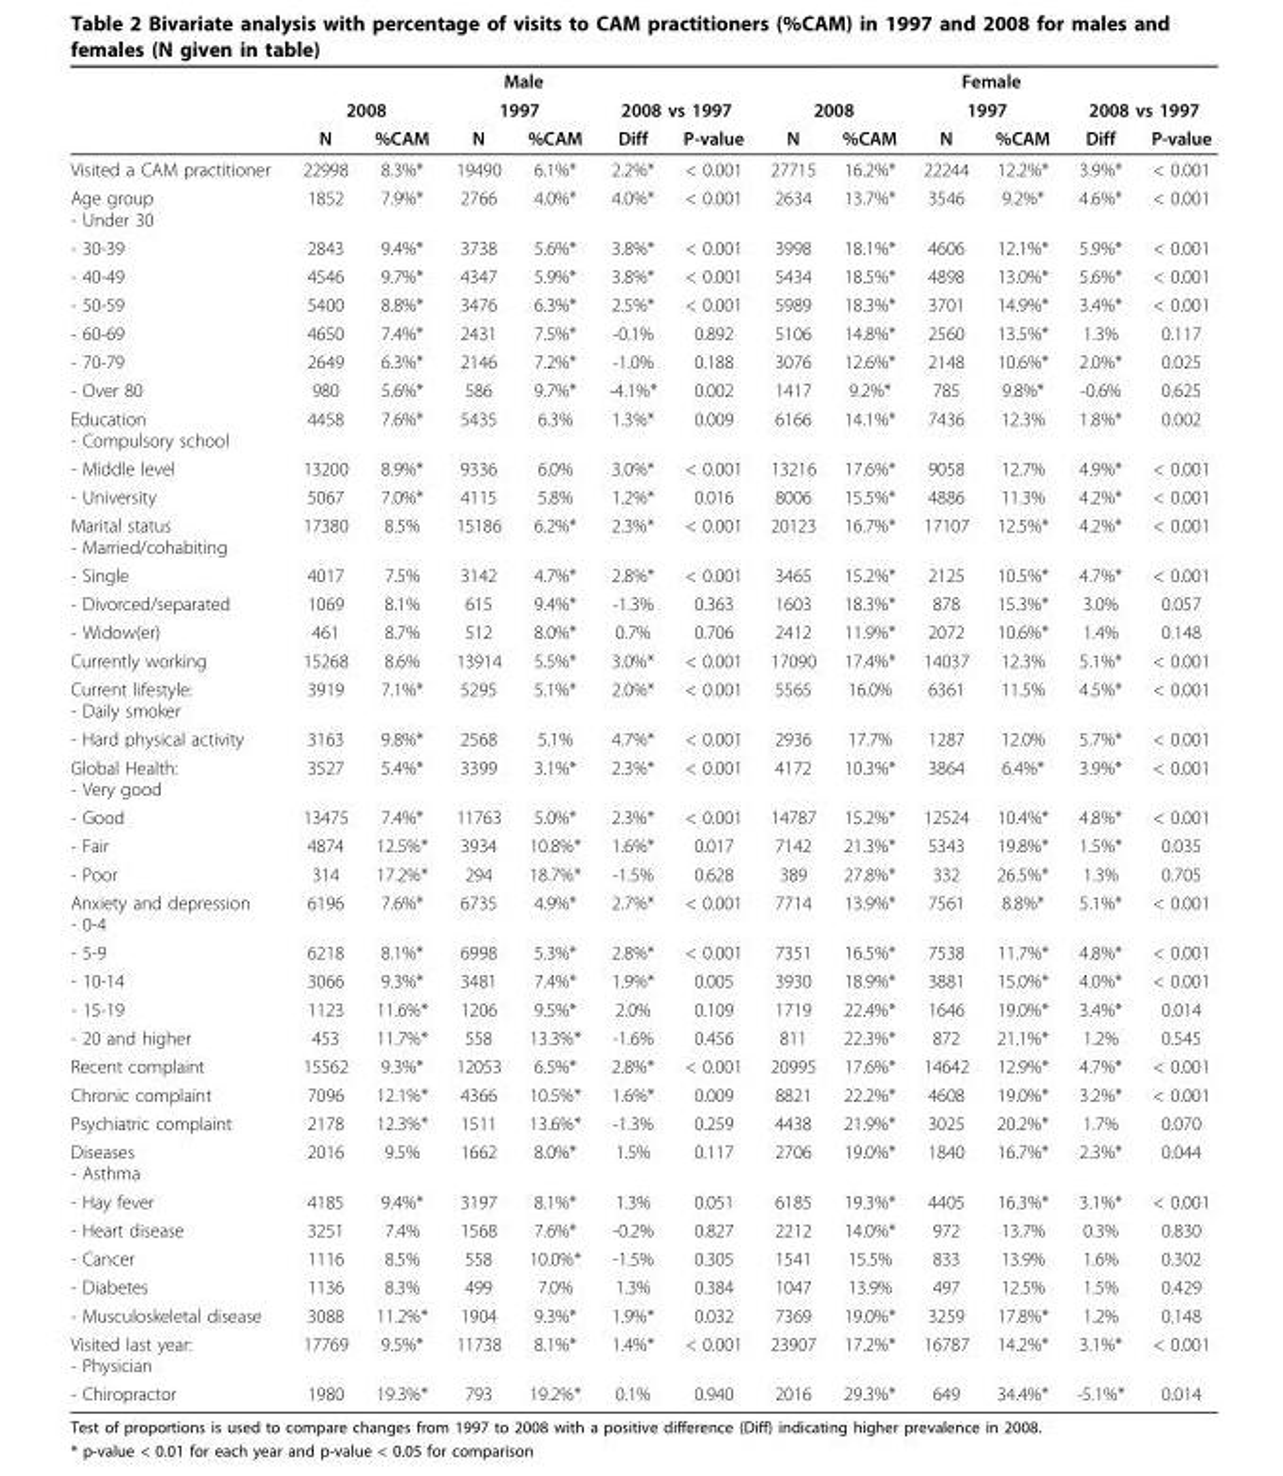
<table><thead><tr><td rowspan="3"></td><td colspan="6">Male</td><td colspan="6">Female</td></tr><tr><td colspan="2">2008</td><td colspan="2">1997</td><td colspan="2">2008 vs 1997</td><td colspan="2">2008</td><td colspan="2">1997</td><td colspan="2">2008 vs 1997</td></tr><tr><td>N</td><td>%CAM</td><td>N</td><td>%CAM</td><td>Diff</td><td>P-value</td><td>N</td><td>%CAM</td><td>N</td><td>%CAM</td><td>Diff</td><td>P-value</td></tr></thead><tbody><tr><td>Visited a CAM practitioner</td><td>22998</td><td>8.3%*</td><td>19490</td><td>6.1%*</td><td>2.2%*</td><td>&lt; 0.001</td><td>27715</td><td>16.2%*</td><td>22244</td><td>12.2%*</td><td>3.9%*</td><td>&lt; 0.001</td></tr><tr><td>Age group - Under 30</td><td>1852</td><td>7.9%*</td><td>2766</td><td>4.0%*</td><td>4.0%*</td><td>&lt; 0.001</td><td>2634</td><td>13.7%*</td><td>3546</td><td>9.2%*</td><td>4.6%*</td><td>&lt; 0.001</td></tr><tr><td>- 30-39</td><td>2843</td><td>9.4%*</td><td>3738</td><td>5.6%*</td><td>3.8%*</td><td>&lt; 0.001</td><td>3998</td><td>18.1%*</td><td>4606</td><td>12.1%*</td><td>5.9%*</td><td>&lt; 0.001</td></tr><tr><td>- 40-49</td><td>4546</td><td>9.7%*</td><td>4347</td><td>5.9%*</td><td>3.8%*</td><td>&lt; 0.001</td><td>5434</td><td>18.5%*</td><td>4898</td><td>13.0%*</td><td>5.6%*</td><td>&lt; 0.001</td></tr><tr><td>- 50-59</td><td>5400</td><td>8.8%*</td><td>3476</td><td>6.3%*</td><td>2.5%*</td><td>&lt; 0.001</td><td>5989</td><td>18.3%*</td><td>3701</td><td>14.9%*</td><td>3.4%*</td><td>&lt; 0.001</td></tr><tr><td>- 60-69</td><td>4650</td><td>7.4%*</td><td>2431</td><td>7.5%*</td><td>-0.1%</td><td>0.892</td><td>5106</td><td>14.8%*</td><td>2560</td><td>13.5%*</td><td>1.3%</td><td>0.117</td></tr><tr><td>- 70-79</td><td>2649</td><td>6.3%*</td><td>2146</td><td>7.2%*</td><td>-1.0%</td><td>0.188</td><td>3076</td><td>12.6%*</td><td>2148</td><td>10.6%*</td><td>2.0%*</td><td>0.025</td></tr><tr><td>- Over 80</td><td>980</td><td>5.6%*</td><td>586</td><td>9.7%*</td><td>-4.1%*</td><td>0.002</td><td>1417</td><td>9.2%*</td><td>785</td><td>9.8%*</td><td>-0.6%</td><td>0.625</td></tr><tr><td>Education - Compulsory school</td><td>4458</td><td>7.6%*</td><td>5435</td><td>6.3%</td><td>1.3%*</td><td>0.009</td><td>6166</td><td>14.1%*</td><td>7436</td><td>12.3%</td><td>1.8%*</td><td>0.002</td></tr><tr><td>- Middle level</td><td>13200</td><td>8.9%*</td><td>9336</td><td>6.0%</td><td>3.0%*</td><td>&lt; 0.001</td><td>13216</td><td>17.6%*</td><td>9058</td><td>12.7%</td><td>4.9%*</td><td>&lt; 0.001</td></tr><tr><td>- University</td><td>5067</td><td>7.0%*</td><td>4115</td><td>5.8%</td><td>1.2%*</td><td>0.016</td><td>8006</td><td>15.5%*</td><td>4886</td><td>11.3%</td><td>4.2%*</td><td>&lt; 0.001</td></tr><tr><td>Marital status - Married/cohabiting</td><td>17380</td><td>8.5%</td><td>15186</td><td>6.2%*</td><td>2.3%*</td><td>&lt; 0.001</td><td>20123</td><td>16.7%*</td><td>17107</td><td>12.5%*</td><td>4.2%*</td><td>&lt; 0.001</td></tr><tr><td>- Single</td><td>4017</td><td>7.5%</td><td>3142</td><td>4.7%*</td><td>2.8%*</td><td>&lt; 0.001</td><td>3465</td><td>15.2%*</td><td>2125</td><td>10.5%*</td><td>4.7%*</td><td>&lt; 0.001</td></tr><tr><td>- Divorced/separated</td><td>1069</td><td>8.1%</td><td>615</td><td>9.4%*</td><td>-1.3%</td><td>0.363</td><td>1603</td><td>18.3%*</td><td>878</td><td>15.3%*</td><td>3.0%</td><td>0.057</td></tr><tr><td>- Widow(er)</td><td>461</td><td>8.7%</td><td>512</td><td>8.0%*</td><td>0.7%</td><td>0.706</td><td>2412</td><td>11.9%*</td><td>2072</td><td>10.6%*</td><td>1.4%</td><td>0.148</td></tr><tr><td>Currently working</td><td>15268</td><td>8.6%</td><td>13914</td><td>5.5%*</td><td>3.0%*</td><td>&lt; 0.001</td><td>17090</td><td>17.4%*</td><td>14037</td><td>12.3%</td><td>5.1%*</td><td>&lt; 0.001</td></tr><tr><td>Current lifestyle: - Daily smoker</td><td>3919</td><td>7.1%*</td><td>5295</td><td>5.1%*</td><td>2.0%*</td><td>&lt; 0.001</td><td>5565</td><td>16.0%</td><td>6361</td><td>11.5%</td><td>4.5%*</td><td>&lt; 0.001</td></tr><tr><td>- Hard physical activity</td><td>3163</td><td>9.8%*</td><td>2568</td><td>5.1%</td><td>4.7%*</td><td>&lt; 0.001</td><td>2936</td><td>17.7%</td><td>1287</td><td>12.0%</td><td>5.7%*</td><td>&lt; 0.001</td></tr><tr><td>Global Health: - Very good</td><td>3527</td><td>5.4%*</td><td>3399</td><td>3.1%*</td><td>2.3%*</td><td>&lt; 0.001</td><td>4172</td><td>10.3%*</td><td>3864</td><td>6.4%*</td><td>3.9%*</td><td>&lt; 0.001</td></tr><tr><td>- Good</td><td>13475</td><td>7.4%*</td><td>11763</td><td>5.0%*</td><td>2.3%*</td><td>&lt; 0.001</td><td>14787</td><td>15.2%*</td><td>12524</td><td>10.4%*</td><td>4.8%*</td><td>&lt; 0.001</td></tr><tr><td>- Fair</td><td>4874</td><td>12.5%*</td><td>3934</td><td>10.8%*</td><td>1.6%*</td><td>0.017</td><td>7142</td><td>21.3%*</td><td>5343</td><td>19.8%*</td><td>1.5%*</td><td>0.035</td></tr><tr><td>- Poor</td><td>314</td><td>17.2%*</td><td>294</td><td>18.7%*</td><td>-1.5%</td><td>0.628</td><td>389</td><td>27.8%*</td><td>332</td><td>26.5%*</td><td>1.3%</td><td>0.705</td></tr><tr><td>Anxiety and depression - 0-4</td><td>6196</td><td>7.6%*</td><td>6735</td><td>4.9%*</td><td>2.7%*</td><td>&lt; 0.001</td><td>7714</td><td>13.9%*</td><td>7561</td><td>8.8%*</td><td>5.1%*</td><td>&lt; 0.001</td></tr><tr><td>- 5-9</td><td>6218</td><td>8.1%*</td><td>6998</td><td>5.3%*</td><td>2.8%*</td><td>&lt; 0.001</td><td>7351</td><td>16.5%*</td><td>7538</td><td>11.7%*</td><td>4.8%*</td><td>&lt; 0.001</td></tr><tr><td>- 10-14</td><td>3066</td><td>9.3%*</td><td>3481</td><td>7.4%*</td><td>1.9%*</td><td>0.005</td><td>3930</td><td>18.9%*</td><td>3881</td><td>15.0%*</td><td>4.0%*</td><td>&lt; 0.001</td></tr><tr><td>- 15-19</td><td>1123</td><td>11.6%*</td><td>1206</td><td>9.5%*</td><td>2.0%</td><td>0.109</td><td>1719</td><td>22.4%*</td><td>1646</td><td>19.0%*</td><td>3.4%*</td><td>0.014</td></tr><tr><td>- 20 and higher</td><td>453</td><td>11.7%*</td><td>558</td><td>13.3%*</td><td>-1.6%</td><td>0.456</td><td>811</td><td>22.3%*</td><td>872</td><td>21.1%*</td><td>1.2%</td><td>0.545</td></tr><tr><td>Recent complaint</td><td>15562</td><td>9.3%*</td><td>12053</td><td>6.5%*</td><td>2.8%*</td><td>&lt; 0.001</td><td>20995</td><td>17.6%*</td><td>14642</td><td>12.9%*</td><td>4.7%*</td><td>&lt; 0.001</td></tr><tr><td>Chronic complaint</td><td>7096</td><td>12.1%*</td><td>4366</td><td>10.5%*</td><td>1.6%*</td><td>0.009</td><td>8821</td><td>22.2%*</td><td>4608</td><td>19.0%*</td><td>3.2%*</td><td>&lt; 0.001</td></tr><tr><td>Psychiatric complaint</td><td>2178</td><td>12.3%*</td><td>1511</td><td>13.6%*</td><td>-1.3%</td><td>0.259</td><td>4438</td><td>21.9%*</td><td>3025</td><td>20.2%*</td><td>1.7%</td><td>0.070</td></tr><tr><td>Diseases - Asthma</td><td>2016</td><td>9.5%</td><td>1662</td><td>8.0%*</td><td>1.5%</td><td>0.117</td><td>2706</td><td>19.0%*</td><td>1840</td><td>16.7%*</td><td>2.3%*</td><td>0.044</td></tr><tr><td>- Hay fever</td><td>4185</td><td>9.4%*</td><td>3197</td><td>8.1%*</td><td>1.3%</td><td>0.051</td><td>6185</td><td>19.3%*</td><td>4405</td><td>16.3%*</td><td>3.1%*</td><td>&lt; 0.001</td></tr><tr><td>- Heart disease</td><td>3251</td><td>7.4%</td><td>1568</td><td>7.6%*</td><td>-0.2%</td><td>0.827</td><td>2212</td><td>14.0%*</td><td>972</td><td>13.7%</td><td>0.3%</td><td>0.830</td></tr><tr><td>- Cancer</td><td>1116</td><td>8.5%</td><td>558</td><td>10.0%*</td><td>-1.5%</td><td>0.305</td><td>1541</td><td>15.5%</td><td>833</td><td>13.9%</td><td>1.6%</td><td>0.302</td></tr><tr><td>- Diabetes</td><td>1136</td><td>8.3%</td><td>499</td><td>7.0%</td><td>1.3%</td><td>0.384</td><td>1047</td><td>13.9%</td><td>497</td><td>12.5%</td><td>1.5%</td><td>0.429</td></tr><tr><td>- Musculoskeletal disease</td><td>3088</td><td>11.2%*</td><td>1904</td><td>9.3%*</td><td>1.9%*</td><td>0.032</td><td>7369</td><td>19.0%*</td><td>3259</td><td>17.8%*</td><td>1.2%</td><td>0.148</td></tr><tr><td>Visited last year: - Physician</td><td>17769</td><td>9.5%*</td><td>11738</td><td>8.1%*</td><td>1.4%*</td><td>&lt; 0.001</td><td>23907</td><td>17.2%*</td><td>16787</td><td>14.2%*</td><td>3.1%*</td><td>&lt; 0.001</td></tr><tr><td>- Chiropractor</td><td>1980</td><td>19.3%*</td><td>793</td><td>19.2%*</td><td>0.1%</td><td>0.940</td><td>2016</td><td>29.3%*</td><td>649</td><td>34.4%*</td><td>-5.1%*</td><td>0.014</td></tr></tbody></table>